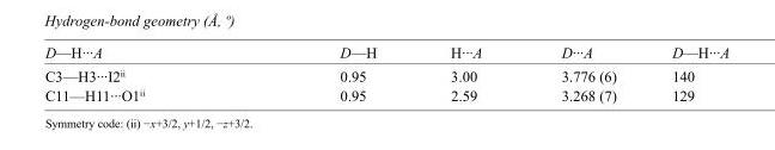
<table><tbody><tr><td>D—H···A</td><td>D—H</td><td>H···A</td><td>D···A</td><td>D—H···A</td></tr><tr><td>C3—H3···I2<sup>ii</sup></td><td>0.95</td><td>3.00</td><td>3.776 (6)</td><td>140</td></tr><tr><td>C11—H11···O1<sup>ii</sup></td><td>0.95</td><td>2.59</td><td>3.268 (7)</td><td>129</td></tr></tbody></table>